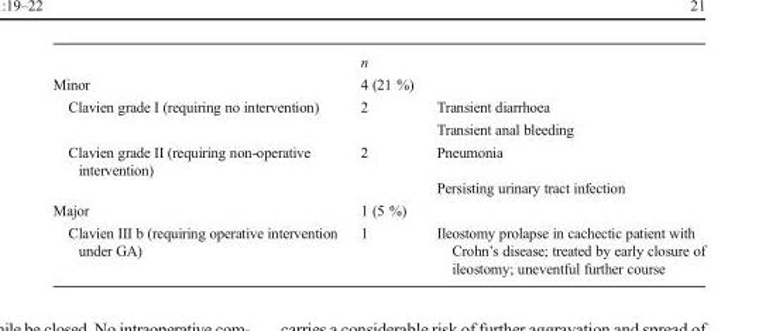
<table><thead><tr><td></td><td>n</td><td></td></tr></thead><tbody><tr><td>Minor</td><td>4 (21 %)</td><td></td></tr><tr><td rowspan="2">Clavien grade I (requiring no intervention)</td><td>2</td><td>Transient diarrhoea</td></tr><tr><td></td><td>Transient anal bleeding</td></tr><tr><td rowspan="2">Clavien grade II (requiring non-operative intervention)</td><td>2</td><td>Pneumonia</td></tr><tr><td></td><td>Persisting urinary tract infection</td></tr><tr><td>Major</td><td>1 (5 %)</td><td></td></tr><tr><td>Clavien III b (requiring operative intervention under GA)</td><td>1</td><td>Ileostomy prolapse in cachectic patient with Crohn’s disease; treated by early closure of ileostomy; uneventful further course</td></tr></tbody></table>